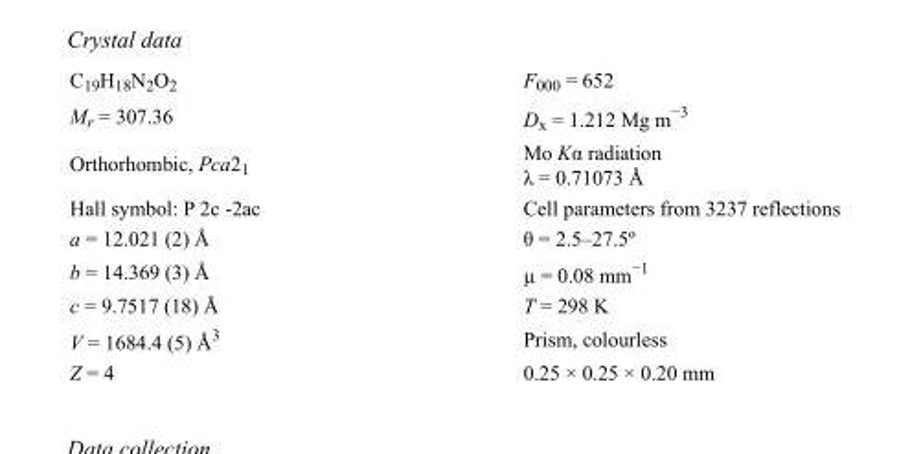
<table><tbody><tr><td>C<sub>19</sub>H<sub>18</sub>N<sub>2</sub>O<sub>2</sub></td><td>F000 = 652</td></tr><tr><td>M<sub>r</sub> = 307.36</td><td>D<sub>x</sub> = 1.212 Mg m<sup>−3</sup></td></tr><tr><td>Orthorhombic, Pca2<sub>1</sub></td><td>Mo Kα radiation λ = 0.71073 Å</td></tr><tr><td>Hall symbol: P 2c -2ac</td><td>Cell parameters from 3237 reflections</td></tr><tr><td>a = 12.021 (2) Å</td><td>θ = 2.5–27.5º</td></tr><tr><td>b = 14.369 (3) Å</td><td>µ = 0.08 mm<sup>−1</sup></td></tr><tr><td>c = 9.7517 (18) Å</td><td>T = 298 K</td></tr><tr><td>V = 1684.4 (5) Å<sup>3</sup></td><td>Prism, colourless</td></tr><tr><td>Z = 4</td><td>0.25 × 0.25 × 0.20 mm</td></tr></tbody></table>